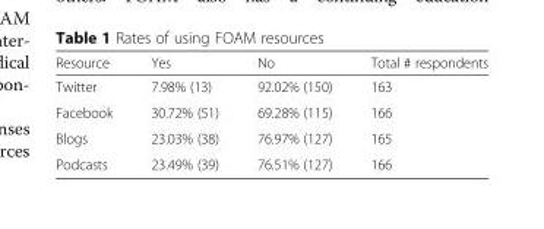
<table><thead><tr><td>Resource</td><td>Yes</td><td>No</td><td>Total # respondents</td></tr></thead><tbody><tr><td>Twitter</td><td>7.98% (13)</td><td>92.02% (150)</td><td>163</td></tr><tr><td>Facebook</td><td>30.72% (51)</td><td>69.28% (115)</td><td>166</td></tr><tr><td>Blogs</td><td>23.03% (38)</td><td>76.97% (127)</td><td>165</td></tr><tr><td>Podcasts</td><td>23.49% (39)</td><td>76.51% (127)</td><td>166</td></tr></tbody></table>